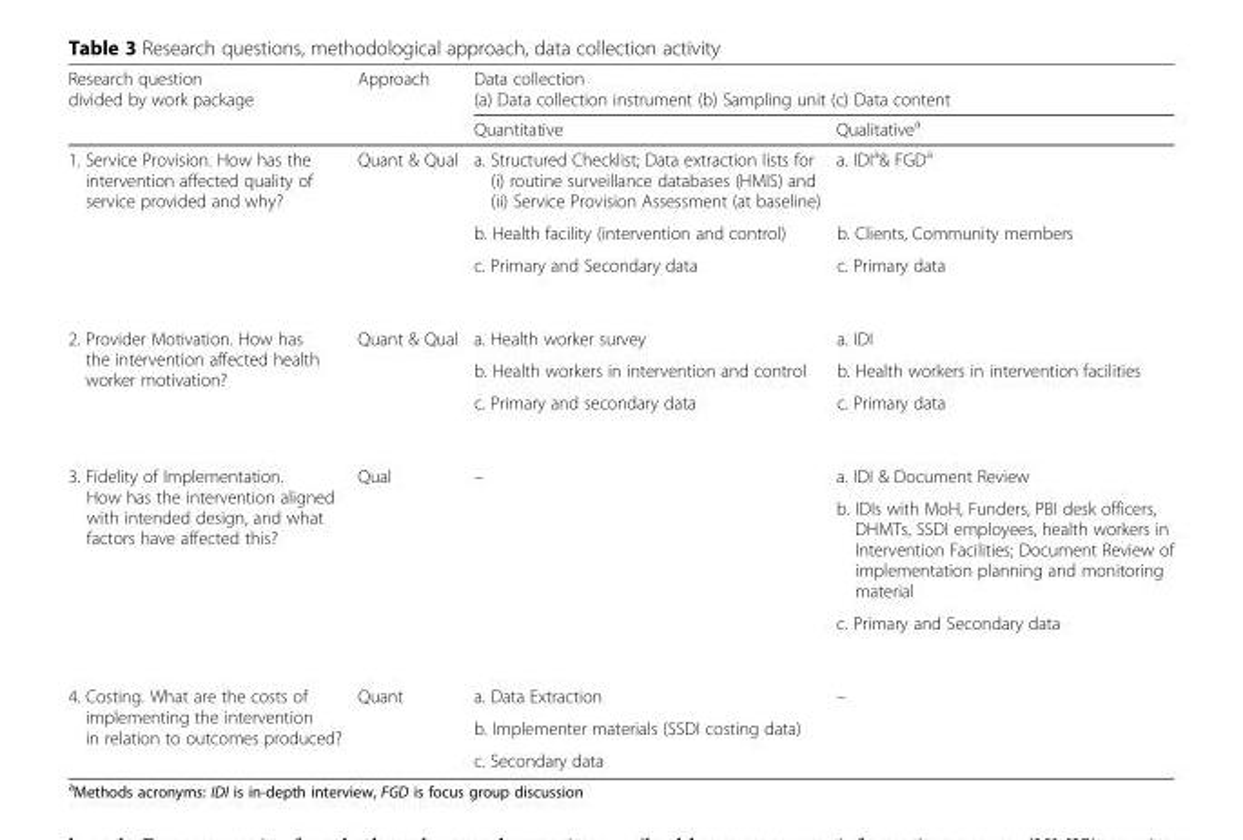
<table><thead><tr><td rowspan="3">Research question divided by work package</td><td rowspan="3">Approach</td><td rowspan="2" colspan="2">Data collection (a) Data collection instrument (b) Sampling unit (c) Data content</td></tr><tr></tr><tr><td>Quantitative</td><td>Qualitative<sup>a</sup></td></tr></thead><tbody><tr><td rowspan="3">1. Service Provision. How has the intervention affected quality of service provided and why?</td><td rowspan="3">Quant &amp; Qual</td><td>a. Structured Checklist; Data extraction lists for (i) routine surveillance databases (HMIS) and (ii) Service Provision Assessment (at baseline)</td><td>a. IDI<sup>a</sup>&amp; FGD<sup>a</sup></td></tr><tr><td>b. Health facility (intervention and control)</td><td>b. Clients, Community members</td></tr><tr><td>c. Primary and Secondary data</td><td>c. Primary data</td></tr><tr><td rowspan="3">2. Provider Motivation. How has the intervention affected health worker motivation?</td><td rowspan="3">Quant &amp; Qual</td><td>a. Health worker survey</td><td>a. IDI</td></tr><tr><td>b. Health workers in intervention and control</td><td>b. Health workers in intervention facilities</td></tr><tr><td>c. Primary and secondary data</td><td>c. Primary data</td></tr><tr><td rowspan="3">3. Fidelity of Implementation. How has the intervention aligned with intended design, and what factors have affected this?</td><td rowspan="3">Qual</td><td rowspan="3">–</td><td>a. IDI &amp; Document Review</td></tr><tr><td>b. IDIs with MoH, Funders, PBI desk officers, DHMTs, SSDI employees, health workers in Intervention Facilities; Document Review of implementation planning and monitoring material</td></tr><tr><td>c. Primary and Secondary data</td></tr><tr><td rowspan="3">4. Costing. What are the costs of implementing the intervention in relation to outcomes produced?</td><td rowspan="3">Quant</td><td>a. Data Extraction</td><td rowspan="3">–</td></tr><tr><td>b. Implementer materials (SSDI costing data)</td></tr><tr><td>c. Secondary data</td></tr></tbody></table>